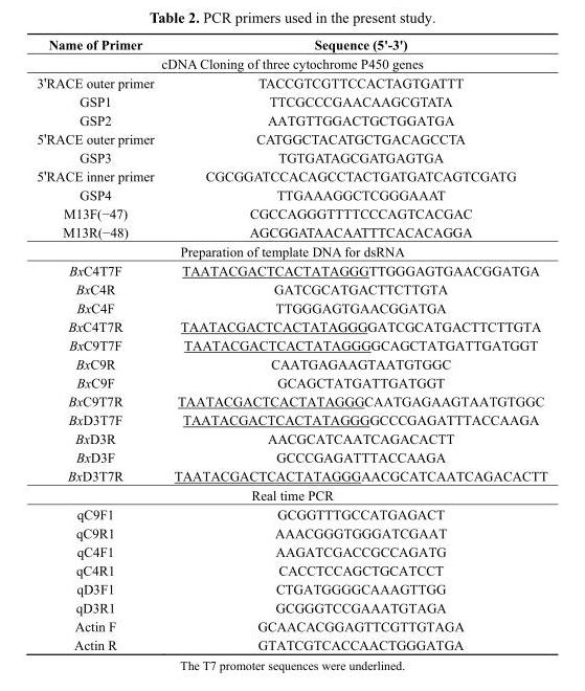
<table><thead><tr><td>Name of Primer</td><td>Sequence (5&#x27;-3&#x27;)</td></tr></thead><tbody><tr><td colspan="2">cDNA Cloning of three cytochrome P450 genes</td></tr><tr><td>3&#x27;RACE outer primer</td><td>TACCGTCGTTCCACTAGTGATTT</td></tr><tr><td>GSP1</td><td>TTCGCCCGAACAAGCGTATA</td></tr><tr><td>GSP2</td><td>AATGTTGGACTGCTGGATGA</td></tr><tr><td>5&#x27;RACE outer primer</td><td>CATGGCTACATGCTGACAGCCTA</td></tr><tr><td>GSP3</td><td>TGTGATAGCGATGAGTGA</td></tr><tr><td>5&#x27;RACE inner primer</td><td>CGCGGATCCACAGCCTACTGATGATCAGTCGATG</td></tr><tr><td>GSP4</td><td>TTGAAAGGCTCGGGAAAT</td></tr><tr><td>M13F(−47)</td><td>CGCCAGGGTTTTCCCAGTCACGAC</td></tr><tr><td>M13R(−48)</td><td>AGCGGATAACAATTTCACACAGGA</td></tr><tr><td colspan="2">Preparation of template DNA for dsRNA</td></tr><tr><td>BxC4T7F</td><td>TAATACGACTCACTATAGGGTTGGGAGTGAACGGATGA</td></tr><tr><td>BxC4R</td><td>GATCGCATGACTTCTTGTA</td></tr><tr><td>BxC4F</td><td>TTGGGAGTGAACGGATGA</td></tr><tr><td>BxC4T7R</td><td>TAATACGACTCACTATAGGGGATCGCATGACTTCTTGTA</td></tr><tr><td>BxC9T7F</td><td>TAATACGACTCACTATAGGGGCAGCTATGATTGATGGT</td></tr><tr><td>BxC9R</td><td>CAATGAGAAGTAATGTGGC</td></tr><tr><td>BxC9F</td><td>GCAGCTATGATTGATGGT</td></tr><tr><td>BxC9T7R</td><td>TAATACGACTCACTATAGGGCAATGAGAAGTAATGTGGC</td></tr><tr><td>BxD3T7F</td><td>TAATACGACTCACTATAGGGGCCCGAGATTTACCAAGA</td></tr><tr><td>BxD3R</td><td>AACGCATCAATCAGACACTT</td></tr><tr><td>BxD3F</td><td>GCCCGAGATTTACCAAGA</td></tr><tr><td>BxD3T7R</td><td>TAATACGACTCACTATAGGGAACGCATCAATCAGACACTT</td></tr><tr><td colspan="2">Real time PCR</td></tr><tr><td>qC9F1</td><td>GCGGTTTGCCATGAGACT</td></tr><tr><td>qC9R1</td><td>AAACGGGTGGGATCGAAT</td></tr><tr><td>qC4F1</td><td>AAGATCGACCGCCAGATG</td></tr><tr><td>qC4R1</td><td>CACCTCCAGCTGCATCCT</td></tr><tr><td>qD3F1</td><td>CTGATGGGGCAAAGTTGG</td></tr><tr><td>qD3R1</td><td>GCGGGTCCGAAATGTAGA</td></tr><tr><td>Actin F</td><td>GCAACACGGAGTTCGTTGTAGA</td></tr><tr><td>Actin R</td><td>GTATCGTCACCAACTGGGATGA</td></tr></tbody></table>